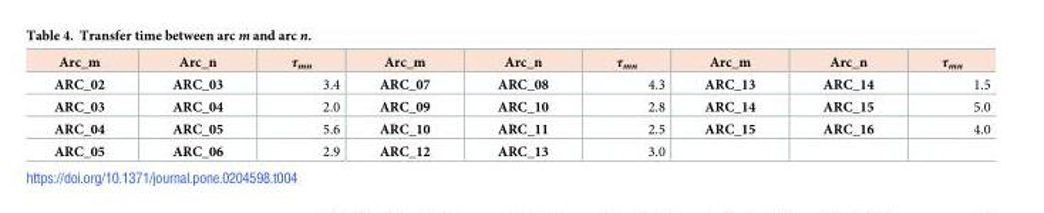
<table><thead><tr><td>Arc_m</td><td>Arc_n</td><td>τ<sub>mn</sub></td><td>Arc_m</td><td>Arc_n</td><td>τ<sub>mn</sub></td><td>Arc_m</td><td>Arc_n</td><td>τ<sub>mn</sub></td></tr></thead><tbody><tr><td>ARC_02</td><td>ARC_03</td><td>3.4</td><td>ARC_07</td><td>ARC_08</td><td>4.3</td><td>ARC_13</td><td>ARC_14</td><td>1.5</td></tr><tr><td>ARC_03</td><td>ARC_04</td><td>2.0</td><td>ARC_09</td><td>ARC_10</td><td>2.8</td><td>ARC_14</td><td>ARC_15</td><td>5.0</td></tr><tr><td>ARC_04</td><td>ARC_05</td><td>5.6</td><td>ARC_10</td><td>ARC_11</td><td>2.5</td><td>ARC_15</td><td>ARC_16</td><td>4.0</td></tr><tr><td>ARC_05</td><td>ARC_06</td><td>2.9</td><td>ARC_12</td><td>ARC_13</td><td>3.0</td><td></td><td></td><td></td></tr></tbody></table>